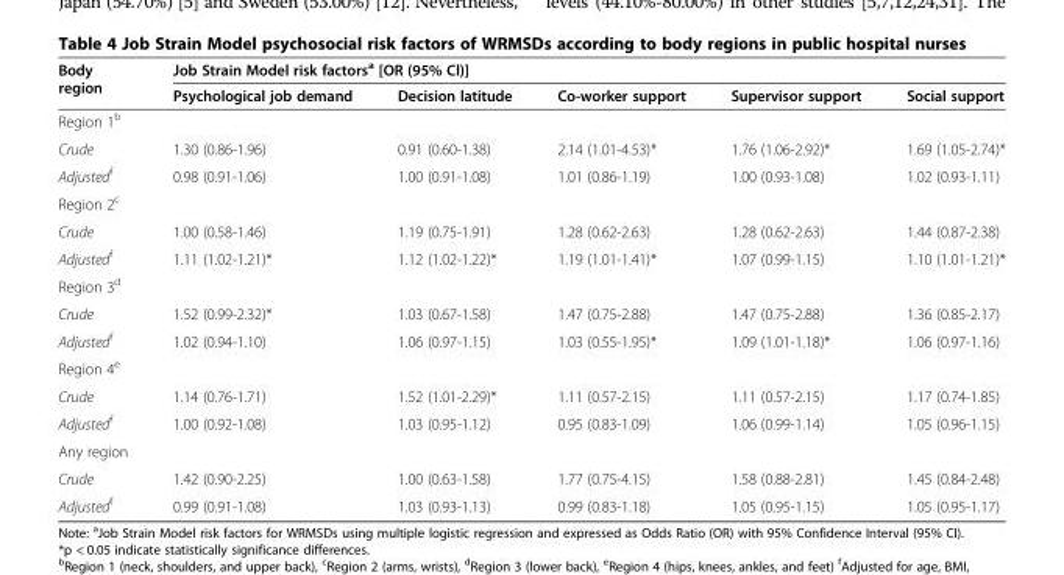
<table><thead><tr><td rowspan="2">Body region</td><td colspan="5">Job Strain Model risk factors<sup>a</sup> [OR (95% Cl)]</td></tr><tr><td>Psychological job demand</td><td>Decision latitude</td><td>Co-worker support</td><td>Supervisor support</td><td>Social support</td></tr></thead><tbody><tr><td colspan="6">Region 1<sup>b</sup></td></tr><tr><td>Crude</td><td>1.30 (0.86-1.96)</td><td>0.91 (0.60-1.38)</td><td>2.14 (1.01-4.53)*</td><td>1.76 (1.06-2.92)*</td><td>1.69 (1.05-2.74)*</td></tr><tr><td>Adjusted<sup>f</sup></td><td>0.98 (0.91-1.06)</td><td>1.00 (0.91-1.08)</td><td>1.01 (0.86-1.19)</td><td>1.00 (0.93-1.08)</td><td>1.02 (0.93-1.11)</td></tr><tr><td colspan="6">Region 2<sup>c</sup></td></tr><tr><td>Crude</td><td>1.00 (0.58-1.46)</td><td>1.19 (0.75-1.91)</td><td>1.28 (0.62-2.63)</td><td>1.28 (0.62-2.63)</td><td>1.44 (0.87-2.38)</td></tr><tr><td>Adjusted<sup>f</sup></td><td>1.11 (1.02-1.21)*</td><td>1.12 (1.02-1.22)*</td><td>1.19 (1.01-1.41)*</td><td>1.07 (0.99-1.15)</td><td>1.10 (1.01-1.21)*</td></tr><tr><td colspan="6">Region 3<sup>d</sup></td></tr><tr><td>Crude</td><td>1.52 (0.99-2.32)*</td><td>1.03 (0.67-1.58)</td><td>1.47 (0.75-2.88)</td><td>1.47 (0.75-2.88)</td><td>1.36 (0.85-2.17)</td></tr><tr><td>Adjusted<sup>f</sup></td><td>1.02 (0.94-1.10)</td><td>1.06 (0.97-1.15)</td><td>1.03 (0.55-1.95)*</td><td>1.09 (1.01-1.18)*</td><td>1.06 (0.97-1.16)</td></tr><tr><td colspan="6">Region 4<sup>e</sup></td></tr><tr><td>Crude</td><td>1.14 (0.76-1.71)</td><td>1.52 (1.01-2.29)*</td><td>1.11 (0.57-2.15)</td><td>1.11 (0.57-2.15)</td><td>1.17 (0.74-1.85)</td></tr><tr><td>Adjusted<sup>f</sup></td><td>1.00 (0.92-1.08)</td><td>1.03 (0.95-1.12)</td><td>0.95 (0.83-1.09)</td><td>1.06 (0.99-1.14)</td><td>1.05 (0.96-1.15)</td></tr><tr><td colspan="6">Any region</td></tr><tr><td>Crude</td><td>1.42 (0.90-2.25)</td><td>1.00 (0.63-1.58)</td><td>1.77 (0.75-4.15)</td><td>1.58 (0.88-2.81)</td><td>1.45 (0.84-2.48)</td></tr><tr><td>Adjusted<sup>f</sup></td><td>0.99 (0.91-1.08)</td><td>1.03 (0.93-1.13)</td><td>0.99 (0.83-1.18)</td><td>1.05 (0.95-1.15)</td><td>1.05 (0.95-1.17)</td></tr></tbody></table>